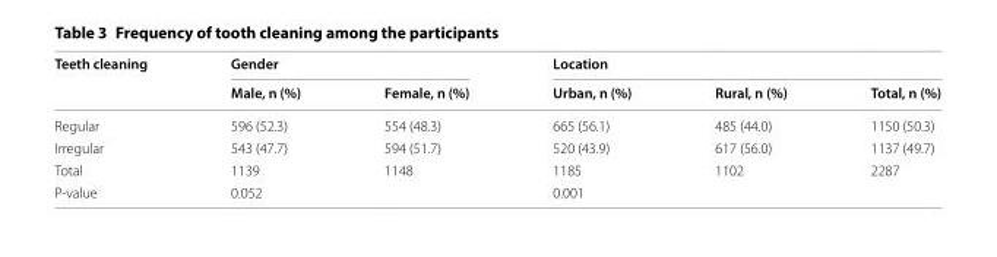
<table><thead><tr><td rowspan="2">Teeth cleaning</td><td colspan="2">Gender</td><td colspan="3">Location</td></tr><tr><td>Male, n (%)</td><td>Female, n (%)</td><td>Urban, n (%)</td><td>Rural, n (%)</td><td>Total, n (%)</td></tr></thead><tbody><tr><td>Regular</td><td>596 (52.3)</td><td>554 (48.3)</td><td>665 (56.1)</td><td>485 (44.0)</td><td>1150 (50.3)</td></tr><tr><td>Irregular</td><td>543 (47.7)</td><td>594 (51.7)</td><td>520 (43.9)</td><td>617 (56.0)</td><td>1137 (49.7)</td></tr><tr><td>Total</td><td>1139</td><td>1148</td><td>1185</td><td>1102</td><td>2287</td></tr><tr><td>P-value</td><td colspan="2">0.052</td><td colspan="3">0.001</td></tr></tbody></table>